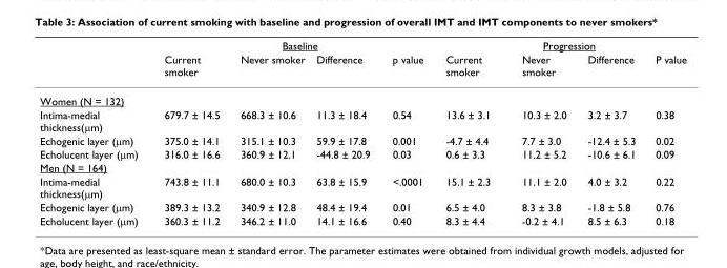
<table><thead><tr><td rowspan="2"></td><td colspan="4">Baseline</td><td colspan="4">Progression</td></tr><tr><td>Current smoker</td><td>Never smoker</td><td>Difference</td><td>p value</td><td>Current smoker</td><td>Never smoker</td><td>Difference</td><td>P value</td></tr></thead><tbody><tr><td colspan="9">Women (N = 132)</td></tr><tr><td>Intima-medial thickness(µm)</td><td>679.7 ± 14.5</td><td>668.3 ± 10.6</td><td>11.3 ± 18.4</td><td>0.54</td><td>13.6 ± 3.1</td><td>10.3 ± 2.0</td><td>3.2 ± 3.7</td><td>0.38</td></tr><tr><td>Echogenic layer (µm)</td><td>375.0 ± 14.1</td><td>315.1 ± 10.3</td><td>59.9 ± 17.8</td><td>0.001</td><td>-4.7 ± 4.4</td><td>7.7 ± 3.0</td><td>-12.4 ± 5.3</td><td>0.02</td></tr><tr><td>Echolucent layer (µm)</td><td>316.0 ± 16.6</td><td>360.9 ± 12.1</td><td>-44.8 ± 20.9</td><td>0.03</td><td>0.6 ± 3.3</td><td>11.2 ± 5.2</td><td>-10.6 ± 6.1</td><td>0.09</td></tr><tr><td colspan="9">Men (N = 164)</td></tr><tr><td>Intima-medial thickness(µm)</td><td>743.8 ± 11.1</td><td>680.0 ± 10.3</td><td>63.8 ± 15.9</td><td>&lt;.0001</td><td>15.1 ± 2.3</td><td>11.1 ± 2.0</td><td>4.0 ± 3.2</td><td>0.22</td></tr><tr><td>Echogenic layer (µm)</td><td>389.3 ± 13.2</td><td>340.9 ± 12.8</td><td>48.4 ± 19.4</td><td>0.01</td><td>6.5 ± 4.0</td><td>8.3 ± 3.8</td><td>-1.8 ± 5.8</td><td>0.76</td></tr><tr><td>Echolucent layer (µm)</td><td>360.3 ± 11.2</td><td>346.2 ± 11.0</td><td>14.1 ± 16.6</td><td>0.40</td><td>8.3 ± 4.4</td><td>-0.2 ± 4.1</td><td>8.5 ± 6.3</td><td>0.18</td></tr></tbody></table>